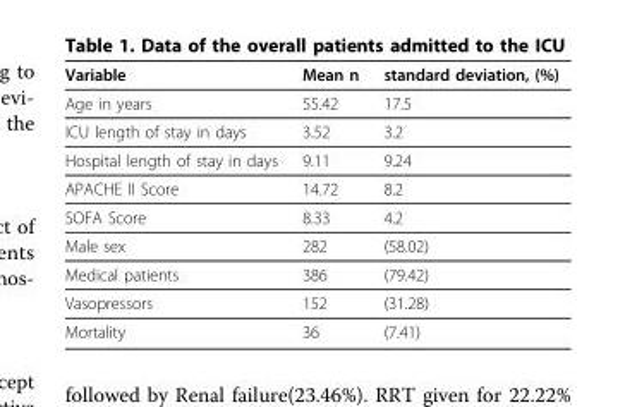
<table><thead><tr><td>Variable</td><td>Mean n</td><td>standard deviation, (%)</td></tr></thead><tbody><tr><td>Age in years</td><td>55.42</td><td>17.5</td></tr><tr><td>ICU length of stay in days</td><td>3.52</td><td>3.2</td></tr><tr><td>Hospital length of stay in days</td><td>9.11</td><td>9.24</td></tr><tr><td>APACHE II Score</td><td>14.72</td><td>8.2</td></tr><tr><td>SOFA Score</td><td>8.33</td><td>4.2</td></tr><tr><td>Male sex</td><td>282</td><td>(58.02)</td></tr><tr><td>Medical patients</td><td>386</td><td>(79.42)</td></tr><tr><td>Vasopressors</td><td>152</td><td>(31.28)</td></tr><tr><td>Mortality</td><td>36</td><td>(7.41)</td></tr></tbody></table>